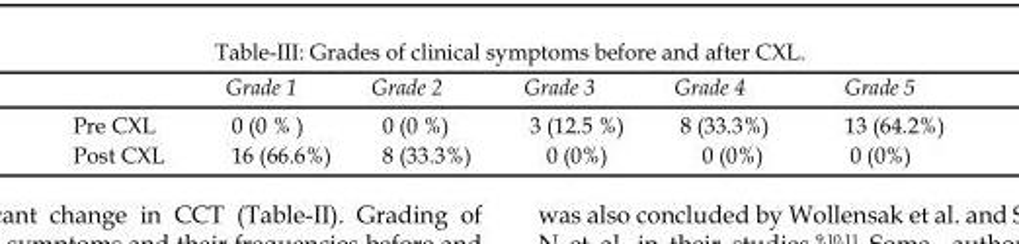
<table><thead><tr><td></td><td>Grade 1</td><td>Grade 2</td><td>Grade 3</td><td>Grade 4</td><td>Grade 5</td></tr></thead><tbody><tr><td>Pre CXL</td><td>0 (0 % )</td><td>0 (0 %)</td><td>3 (12.5 %)</td><td>8 (33.3%)</td><td>13 (64.2%)</td></tr><tr><td>Post CXL</td><td>16 (66.6%)</td><td>8 (33.3%)</td><td>0 (0%)</td><td>0 (0%)</td><td>0 (0%)</td></tr></tbody></table>